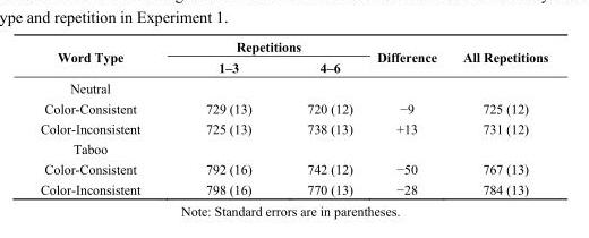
<table><thead><tr><td rowspan="2">Word Type</td><td colspan="2">Repetitions</td><td rowspan="2">Difference</td><td rowspan="2">All Repetitions</td></tr><tr><td>1–3</td><td>4–6</td></tr></thead><tbody><tr><td colspan="5">Neutral</td></tr><tr><td>Color-Consistent</td><td>729 (13)</td><td>720 (12)</td><td>−9</td><td>725 (12)</td></tr><tr><td>Color-Inconsistent</td><td>725 (13)</td><td>738 (13)</td><td>+13</td><td>731 (12)</td></tr><tr><td colspan="5">Taboo</td></tr><tr><td>Color-Consistent</td><td>792 (16)</td><td>742 (12)</td><td>−50</td><td>767 (13)</td></tr><tr><td>Color-Inconsistent</td><td>798 (16)</td><td>770 (13)</td><td>−28</td><td>784 (13)</td></tr></tbody></table>